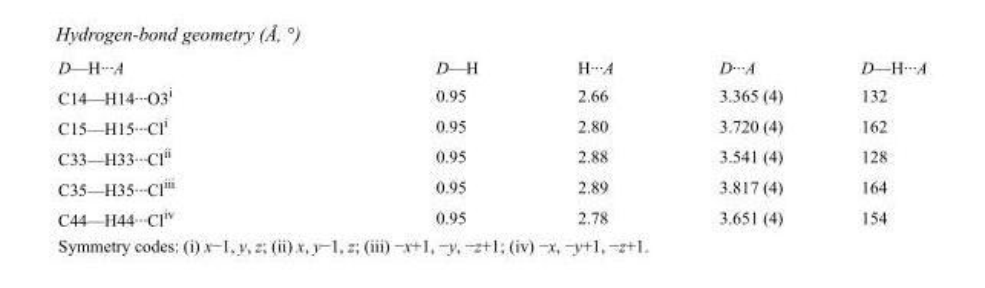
<table><tbody><tr><td>D—H···A</td><td>D—H</td><td>H···A</td><td>D···A</td><td>D—H···A</td></tr><tr><td>C14—H14···O3<sup>i</sup></td><td>0.95</td><td>2.66</td><td>3.365 (4)</td><td>132</td></tr><tr><td>C15—H15···Cl<sup>i</sup></td><td>0.95</td><td>2.80</td><td>3.720 (4)</td><td>162</td></tr><tr><td>C33—H33···Cl<sup>ii</sup></td><td>0.95</td><td>2.88</td><td>3.541 (4)</td><td>128</td></tr><tr><td>C35—H35···Cl<sup>iii</sup></td><td>0.95</td><td>2.89</td><td>3.817 (4)</td><td>164</td></tr><tr><td>C44—H44···Cl<sup>iv</sup></td><td>0.95</td><td>2.78</td><td>3.651 (4)</td><td>154</td></tr></tbody></table>